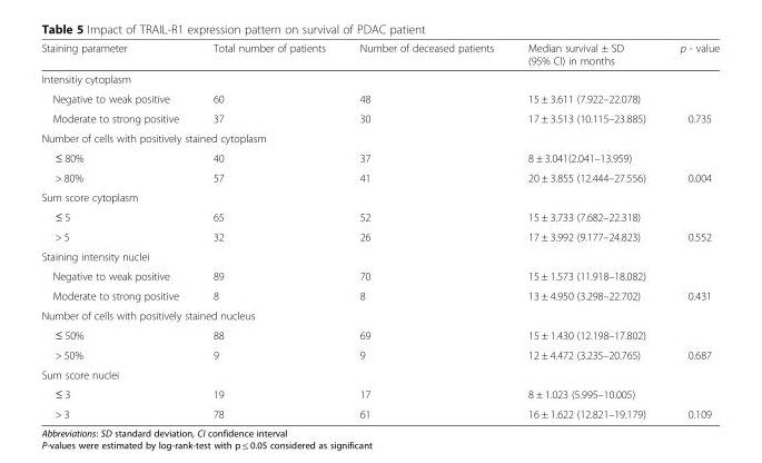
<table><thead><tr><td>Staining parameter</td><td>Total number of patients</td><td>Number of deceased patients</td><td>Median survival ± SD (95% CI) in months</td><td>p - value</td></tr></thead><tbody><tr><td colspan="5">Intensitiy cytoplasm</td></tr><tr><td>Negative to weak positive</td><td>60</td><td>48</td><td>15 ± 3.611 (7.922–22.078)</td><td></td></tr><tr><td>Moderate to strong positive</td><td>37</td><td>30</td><td>17 ± 3.513 (10.115–23.885)</td><td>0.735</td></tr><tr><td colspan="5">Number of cells with positively stained cytoplasm</td></tr><tr><td>≤ 80%</td><td>40</td><td>37</td><td>8 ± 3.041(2.041–13.959)</td><td></td></tr><tr><td>&gt; 80%</td><td>57</td><td>41</td><td>20 ± 3.855 (12.444–27.556)</td><td>0.004</td></tr><tr><td colspan="5">Sum score cytoplasm</td></tr><tr><td>≤ 5</td><td>65</td><td>52</td><td>15 ± 3.733 (7.682–22.318)</td><td></td></tr><tr><td>&gt; 5</td><td>32</td><td>26</td><td>17 ± 3.992 (9.177–24.823)</td><td>0.552</td></tr><tr><td colspan="5">Staining intensity nuclei</td></tr><tr><td>Negative to weak positive</td><td>89</td><td>70</td><td>15 ± 1.573 (11.918–18.082)</td><td></td></tr><tr><td>Moderate to strong positive</td><td>8</td><td>8</td><td>13 ± 4.950 (3.298–22.702)</td><td>0.431</td></tr><tr><td colspan="5">Number of cells with positively stained nucleus</td></tr><tr><td>≤ 50%</td><td>88</td><td>69</td><td>15 ± 1.430 (12.198–17.802)</td><td></td></tr><tr><td>&gt; 50%</td><td>9</td><td>9</td><td>12 ± 4.472 (3.235–20.765)</td><td>0.687</td></tr><tr><td colspan="5">Sum score nuclei</td></tr><tr><td>≤ 3</td><td>19</td><td>17</td><td>8 ± 1.023 (5.995–10.005)</td><td></td></tr><tr><td>&gt; 3</td><td>78</td><td>61</td><td>16 ± 1.622 (12.821–19.179)</td><td>0.109</td></tr></tbody></table>